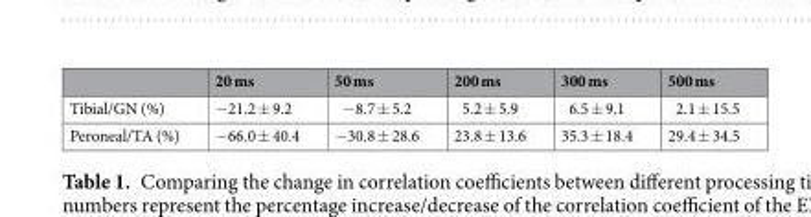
<table><thead><tr><td></td><td>20 ms</td><td>50 ms</td><td>200 ms</td><td>300 ms</td><td>500 ms</td></tr></thead><tbody><tr><td>Tibial/GN (%)</td><td>−21.2 ± 9.2</td><td>−8.7 ± 5.2</td><td>5.2 ± 5.9</td><td>6.5 ± 9.1</td><td>2.1 ± 15.5</td></tr><tr><td>Peroneal/TA (%)</td><td>−66.0 ± 40.4</td><td>−30.8 ± 28.6</td><td>23.8 ± 13.6</td><td>35.3 ± 18.4</td><td>29.4 ± 34.5</td></tr></tbody></table>